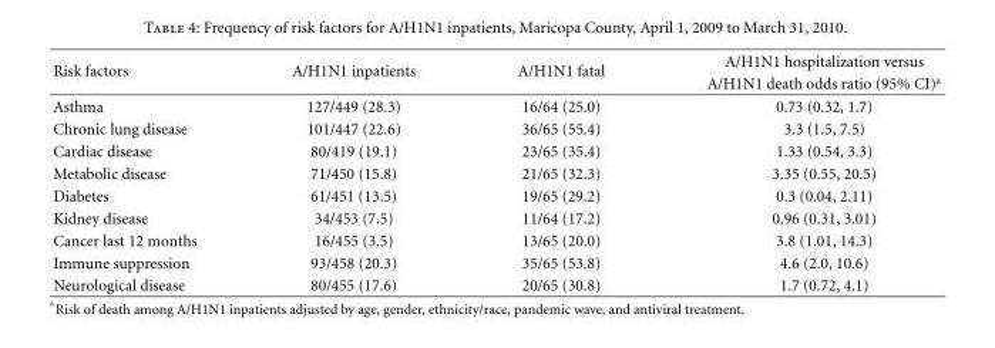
<table><thead><tr><td rowspan="2">Risk factors</td><td rowspan="2">A/H1N1 inpatients</td><td rowspan="2">A/H1N1 fatal</td><td rowspan="2">A/H1N1 hospitalization versus A/H1N1 death odds ratio (95% CI)<sup>a</sup></td></tr><tr></tr></thead><tbody><tr><td>Asthma</td><td>127/449 (28.3)</td><td>16/64 (25.0)</td><td>0.73 (0.32, 1.7)</td></tr><tr><td>Chronic lung disease</td><td>101/447 (22.6)</td><td>36/65 (55.4)</td><td>3.3 (1.5, 7.5)</td></tr><tr><td>Cardiac disease</td><td>80/419 (19.1)</td><td>23/65 (35.4)</td><td>1.33 (0.54, 3.3)</td></tr><tr><td>Metabolic disease</td><td>71/450 (15.8)</td><td>21/65 (32.3)</td><td>3.35 (0.55, 20.5)</td></tr><tr><td>Diabetes</td><td>61/451 (13.5)</td><td>19/65 (29.2)</td><td>0.3 (0.04, 2.11)</td></tr><tr><td>Kidney disease</td><td>34/453 (7.5)</td><td>11/64 (17.2)</td><td>0.96 (0.31, 3.01)</td></tr><tr><td>Cancer last 12 months</td><td>16/455 (3.5)</td><td>13/65 (20.0)</td><td>3.8 (1.01, 14.3)</td></tr><tr><td>Immune suppression</td><td>93/458 (20.3)</td><td>35/65 (53.8)</td><td>4.6 (2.0, 10.6)</td></tr><tr><td>Neurological disease</td><td>80/455 (17.6)</td><td>20/65 (30.8)</td><td>1.7 (0.72, 4.1)</td></tr></tbody></table>